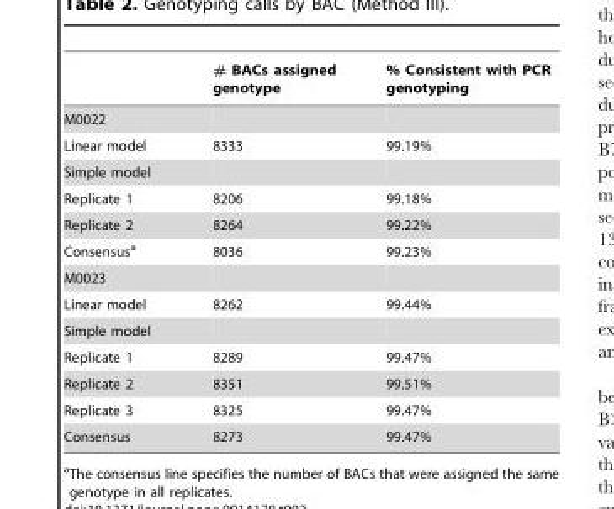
<table><thead><tr><td></td><td># BACs assigned genotype</td><td>% Consistent with PCR genotyping</td></tr></thead><tbody><tr><td colspan="3">M0022</td></tr><tr><td>Linear model</td><td>8333</td><td>99.19%</td></tr><tr><td colspan="3">Simple model</td></tr><tr><td>Replicate 1</td><td>8206</td><td>99.18%</td></tr><tr><td>Replicate 2</td><td>8264</td><td>99.22%</td></tr><tr><td>Consensus<sup>a</sup></td><td>8036</td><td>99.23%</td></tr><tr><td colspan="3">M0023</td></tr><tr><td>Linear model</td><td>8262</td><td>99.44%</td></tr><tr><td colspan="3">Simple model</td></tr><tr><td>Replicate 1</td><td>8289</td><td>99.47%</td></tr><tr><td>Replicate 2</td><td>8351</td><td>99.51%</td></tr><tr><td>Replicate 3</td><td>8325</td><td>99.47%</td></tr><tr><td>Consensus</td><td>8273</td><td>99.47%</td></tr></tbody></table>